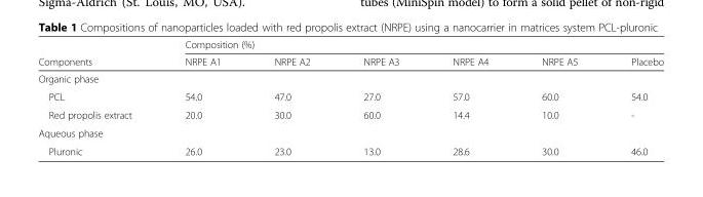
<table><thead><tr><td rowspan="2">Components</td><td colspan="6">Composition (%)</td></tr><tr><td>NRPE A1</td><td>NRPE A2</td><td>NRPE A3</td><td>NRPE A4</td><td>NRPE A5</td><td>Placebo</td></tr></thead><tbody><tr><td colspan="7">Organic phase</td></tr><tr><td>PCL</td><td>54.0</td><td>47.0</td><td>27.0</td><td>57.0</td><td>60.0</td><td>54.0</td></tr><tr><td>Red propolis extract</td><td>20.0</td><td>30.0</td><td>60.0</td><td>14.4</td><td>10.0</td><td>-</td></tr><tr><td colspan="7">Aqueous phase</td></tr><tr><td>Pluronic</td><td>26.0</td><td>23.0</td><td>13.0</td><td>28.6</td><td>30.0</td><td>46.0</td></tr></tbody></table>